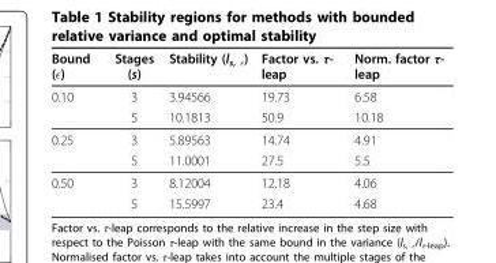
<table><thead><tr><td>Bound (ϵ)</td><td>Stages (s)</td><td>Stability (l<sub>s, ϵ</sub>)</td><td>Factor vs. τ- leap</td><td>Norm. factor τ- leap</td></tr></thead><tbody><tr><td rowspan="2">0.10</td><td>3</td><td>3.94566</td><td>19.73</td><td>6.58</td></tr><tr><td>5</td><td>10.1813</td><td>50.9</td><td>10.18</td></tr><tr><td rowspan="2">0.25</td><td>3</td><td>5.89563</td><td>14.74</td><td>4.91</td></tr><tr><td>5</td><td>11.0001</td><td>27.5</td><td>5.5</td></tr><tr><td rowspan="2">0.50</td><td>3</td><td>8.12004</td><td>12.18</td><td>4.06</td></tr><tr><td>5</td><td>15.5997</td><td>23.4</td><td>4.68</td></tr></tbody></table>